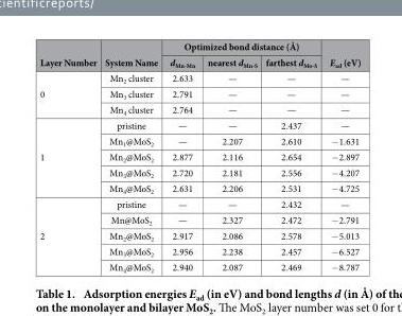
<table><thead><tr><td rowspan="2">Layer Number</td><td rowspan="2">System Name</td><td colspan="3">Optimized bond distance (Å)</td><td rowspan="2">E<sub>ad</sub> (eV)</td></tr><tr><td>d<sub>Mn-Mn</sub></td><td>nearest d<sub>Mn-S</sub></td><td>farthest d<sub>Mo-S</sub></td></tr></thead><tbody><tr><td rowspan="3">0</td><td>Mn<sub>2</sub> cluster</td><td>2.633</td><td>—</td><td>—</td><td>—</td></tr><tr><td>Mn<sub>3</sub> cluster</td><td>2.791</td><td>—</td><td>—</td><td>—</td></tr><tr><td>Mn<sub>4</sub> cluster</td><td>2.764</td><td>—</td><td>—</td><td>—</td></tr><tr><td rowspan="5">1</td><td>pristine</td><td>—</td><td>—</td><td>2.437</td><td>—</td></tr><tr><td>Mn<sub>1</sub>@MoS<sub>2</sub></td><td>—</td><td>2.207</td><td>2.610</td><td>− 1.631</td></tr><tr><td>Mn<sub>2</sub>@MoS<sub>2</sub></td><td>2.877</td><td>2.116</td><td>2.654</td><td>− 2.897</td></tr><tr><td>Mn<sub>3</sub>@MoS<sub>2</sub></td><td>2.720</td><td>2.181</td><td>2.556</td><td>− 4.207</td></tr><tr><td>Mn<sub>4</sub>@MoS<sub>2</sub></td><td>2.631</td><td>2.206</td><td>2.531</td><td>− 4.725</td></tr><tr><td rowspan="5">2</td><td>pristine</td><td>—</td><td>—</td><td>2.432</td><td>—</td></tr><tr><td>Mn@MoS<sub>2</sub></td><td>—</td><td>2.327</td><td>2.472</td><td>− 2.791</td></tr><tr><td>Mn<sub>2</sub>@MoS<sub>2</sub></td><td>2.917</td><td>2.086</td><td>2.578</td><td>− 5.013</td></tr><tr><td>Mn<sub>3</sub>@MoS<sub>2</sub></td><td>2.956</td><td>2.238</td><td>2.457</td><td>− 6.527</td></tr><tr><td>Mn<sub>4</sub>@MoS<sub>2</sub></td><td>2.940</td><td>2.087</td><td>2.469</td><td>− 8.787</td></tr></tbody></table>